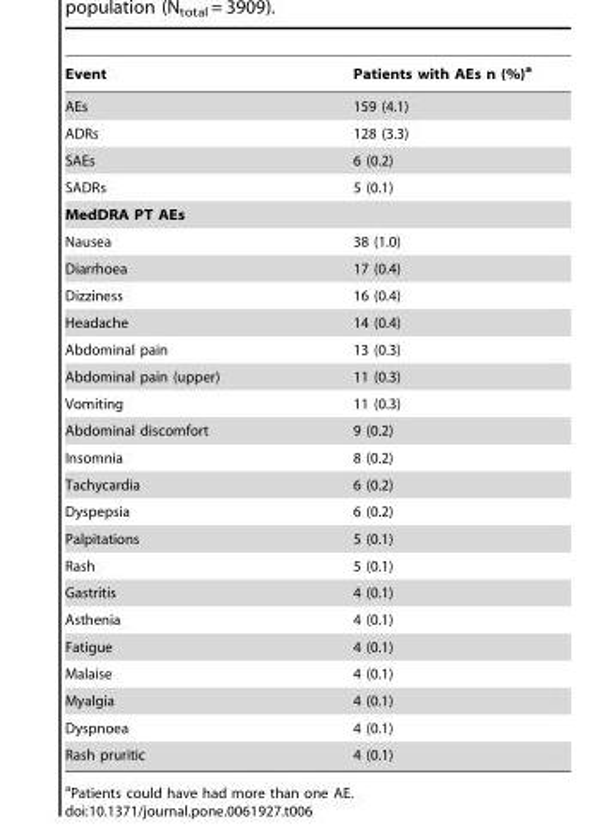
<table><thead><tr><td>Event</td><td>Patients with AEs n (%)<sup>a</sup></td></tr></thead><tbody><tr><td>AEs</td><td>159 (4.1)</td></tr><tr><td>ADRs</td><td>128 (3.3)</td></tr><tr><td>SAEs</td><td>6 (0.2)</td></tr><tr><td>SADRs</td><td>5 (0.1)</td></tr><tr><td colspan="2">MedDRA PT AEs</td></tr><tr><td>Nausea</td><td>38 (1.0)</td></tr><tr><td>Diarrhoea</td><td>17 (0.4)</td></tr><tr><td>Dizziness</td><td>16 (0.4)</td></tr><tr><td>Headache</td><td>14 (0.4)</td></tr><tr><td>Abdominal pain</td><td>13 (0.3)</td></tr><tr><td>Abdominal pain (upper)</td><td>11 (0.3)</td></tr><tr><td>Vomiting</td><td>11 (0.3)</td></tr><tr><td>Abdominal discomfort</td><td>9 (0.2)</td></tr><tr><td>Insomnia</td><td>8 (0.2)</td></tr><tr><td>Tachycardia</td><td>6 (0.2)</td></tr><tr><td>Dyspepsia</td><td>6 (0.2)</td></tr><tr><td>Palpitations</td><td>5 (0.1)</td></tr><tr><td>Rash</td><td>5 (0.1)</td></tr><tr><td>Gastritis</td><td>4 (0.1)</td></tr><tr><td>Asthenia</td><td>4 (0.1)</td></tr><tr><td>Fatigue</td><td>4 (0.1)</td></tr><tr><td>Malaise</td><td>4 (0.1)</td></tr><tr><td>Myalgia</td><td>4 (0.1)</td></tr><tr><td>Dyspnoea</td><td>4 (0.1)</td></tr><tr><td>Rash pruritic</td><td>4 (0.1)</td></tr></tbody></table>